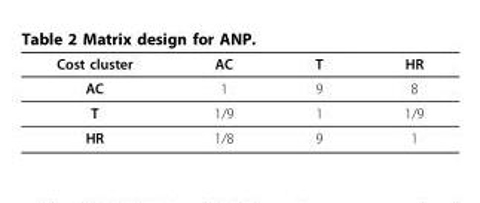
<table><thead><tr><td>Cost cluster</td><td>AC</td><td>T</td><td>HR</td></tr></thead><tbody><tr><td>AC</td><td>1</td><td>9</td><td>8</td></tr><tr><td>T</td><td>1/9</td><td>1</td><td>1/9</td></tr><tr><td>HR</td><td>1/8</td><td>9</td><td>1</td></tr></tbody></table>